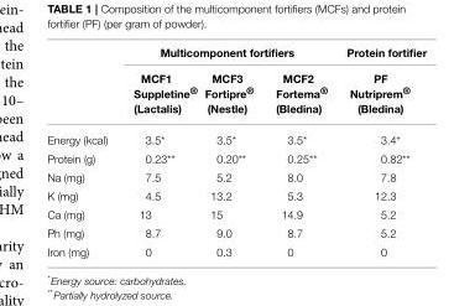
<table><thead><tr><td rowspan="2"></td><td colspan="3">Multicomponent fortifiers</td><td rowspan="2">Protein fortifier PF Nutriprem® (Bledina)</td></tr><tr><td>MCF1 Suppletine® (Lactalis)</td><td>MCF3 Fortipre® (Nestle)</td><td>MCF2 Fortema® (Bledina)</td></tr></thead><tbody><tr><td>Energy (kcal)</td><td>3.5*</td><td>3.5*</td><td>3.5*</td><td>3.4*</td></tr><tr><td>Protein (g)</td><td>0.23**</td><td>0.20**</td><td>0.25**</td><td>0.82**</td></tr><tr><td>Na (mg)</td><td>7.5</td><td>5.2</td><td>8.0</td><td>7.8</td></tr><tr><td>K (mg)</td><td>4.5</td><td>13.2</td><td>5.3</td><td>12.3</td></tr><tr><td>Ca (mg)</td><td>13</td><td>15</td><td>14.9</td><td>5.2</td></tr><tr><td>Ph (mg)</td><td>8.7</td><td>9.0</td><td>8.7</td><td>5.2</td></tr><tr><td>Iron (mg)</td><td>0</td><td>0.3</td><td>0</td><td>0</td></tr></tbody></table>